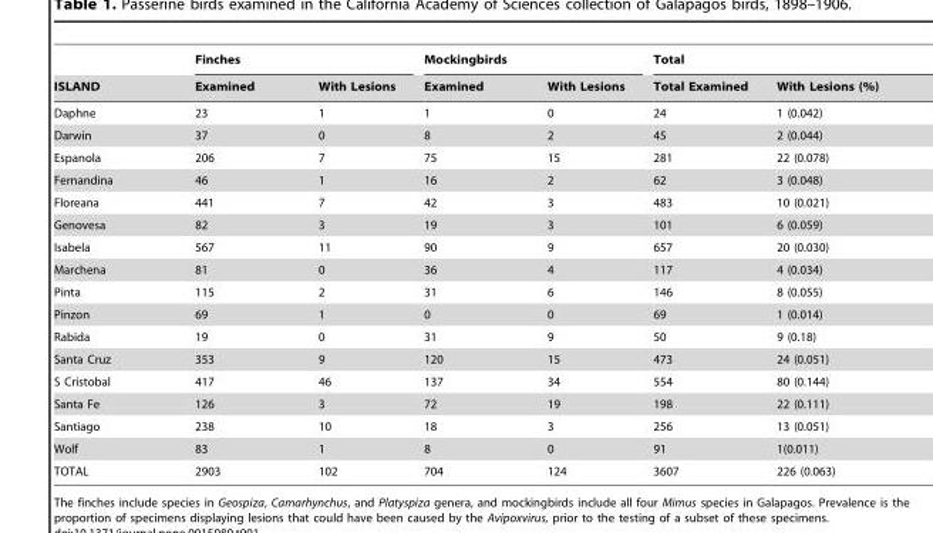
<table><thead><tr><td rowspan="2">ISLAND</td><td colspan="2">Finches</td><td colspan="2">Mockingbirds</td><td colspan="2">Total</td></tr><tr><td>Examined</td><td>With Lesions</td><td>Examined</td><td>With Lesions</td><td>Total Examined</td><td>With Lesions (%)</td></tr></thead><tbody><tr><td>Daphne</td><td>23</td><td>1</td><td>1</td><td>0</td><td>24</td><td>1 (0.042)</td></tr><tr><td>Darwin</td><td>37</td><td>0</td><td>8</td><td>2</td><td>45</td><td>2 (0.044)</td></tr><tr><td>Espanola</td><td>206</td><td>7</td><td>75</td><td>15</td><td>281</td><td>22 (0.078)</td></tr><tr><td>Fernandina</td><td>46</td><td>1</td><td>16</td><td>2</td><td>62</td><td>3 (0.048)</td></tr><tr><td>Floreana</td><td>441</td><td>7</td><td>42</td><td>3</td><td>483</td><td>10 (0.021)</td></tr><tr><td>Genovesa</td><td>82</td><td>3</td><td>19</td><td>3</td><td>101</td><td>6 (0.059)</td></tr><tr><td>Isabela</td><td>567</td><td>11</td><td>90</td><td>9</td><td>657</td><td>20 (0.030)</td></tr><tr><td>Marchena</td><td>81</td><td>0</td><td>36</td><td>4</td><td>117</td><td>4 (0.034)</td></tr><tr><td>Pinta</td><td>115</td><td>2</td><td>31</td><td>6</td><td>146</td><td>8 (0.055)</td></tr><tr><td>Pinzon</td><td>69</td><td>1</td><td>0</td><td>0</td><td>69</td><td>1 (0.014)</td></tr><tr><td>Rabida</td><td>19</td><td>0</td><td>31</td><td>9</td><td>50</td><td>9 (0.18)</td></tr><tr><td>Santa Cruz</td><td>353</td><td>9</td><td>120</td><td>15</td><td>473</td><td>24 (0.051)</td></tr><tr><td>S Cristobal</td><td>417</td><td>46</td><td>137</td><td>34</td><td>554</td><td>80 (0.144)</td></tr><tr><td>Santa Fe</td><td>126</td><td>3</td><td>72</td><td>19</td><td>198</td><td>22 (0.111)</td></tr><tr><td>Santiago</td><td>238</td><td>10</td><td>18</td><td>3</td><td>256</td><td>13 (0.051)</td></tr><tr><td>Wolf</td><td>83</td><td>1</td><td>8</td><td>0</td><td>91</td><td>1(0.011)</td></tr><tr><td>TOTAL</td><td>2903</td><td>102</td><td>704</td><td>124</td><td>3607</td><td>226 (0.063)</td></tr></tbody></table>